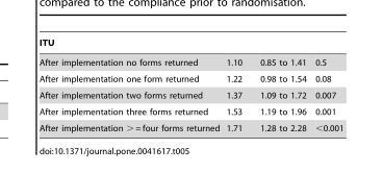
<table><thead><tr><td>ITU</td><td></td><td></td><td></td></tr></thead><tbody><tr><td>After implementation no forms returned</td><td>1.10</td><td>0.85 to 1.41</td><td>0.5</td></tr><tr><td>After implementation one form returned</td><td>1.22</td><td>0.98 to 1.54</td><td>0.08</td></tr><tr><td>After implementation two forms returned</td><td>1.37</td><td>1.09 to 1.72</td><td>0.007</td></tr><tr><td>After implementation three forms returned</td><td>1.53</td><td>1.19 to 1.96</td><td>0.001</td></tr><tr><td>After implementation &gt; = four forms returned</td><td>1.71</td><td>1.28 to 2.28</td><td>&lt;0.001</td></tr></tbody></table>